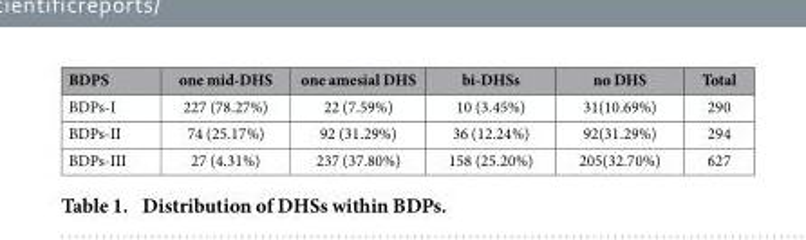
<table><thead><tr><td>BDPS</td><td>one mid-DHS</td><td>one amesial DHS</td><td>bi-DHSs</td><td>no DHS</td><td>Total</td></tr></thead><tbody><tr><td>BDPs-I</td><td>227 (78.27%)</td><td>22 (7.59%)</td><td>10 (3.45%)</td><td>31(10.69%)</td><td>290</td></tr><tr><td>BDPs-II</td><td>74 (25.17%)</td><td>92 (31.29%)</td><td>36 (12.24%)</td><td>92(31.29%)</td><td>294</td></tr><tr><td>BDPs-III</td><td>27 (4.31%)</td><td>237 (37.80%)</td><td>158 (25.20%)</td><td>205(32.70%)</td><td>627</td></tr></tbody></table>